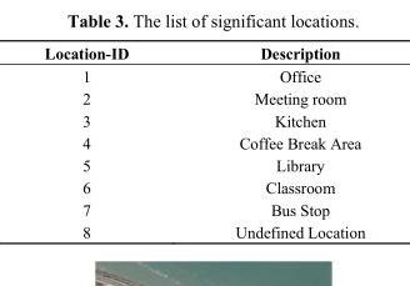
<table><thead><tr><td>Location-ID</td><td>Description</td></tr></thead><tbody><tr><td>1</td><td>Office</td></tr><tr><td>2</td><td>Meeting room</td></tr><tr><td>3</td><td>Kitchen</td></tr><tr><td>4</td><td>Coffee Break Area</td></tr><tr><td>5</td><td>Library</td></tr><tr><td>6</td><td>Classroom</td></tr><tr><td>7</td><td>Bus Stop</td></tr><tr><td>8</td><td>Undefined Location</td></tr></tbody></table>